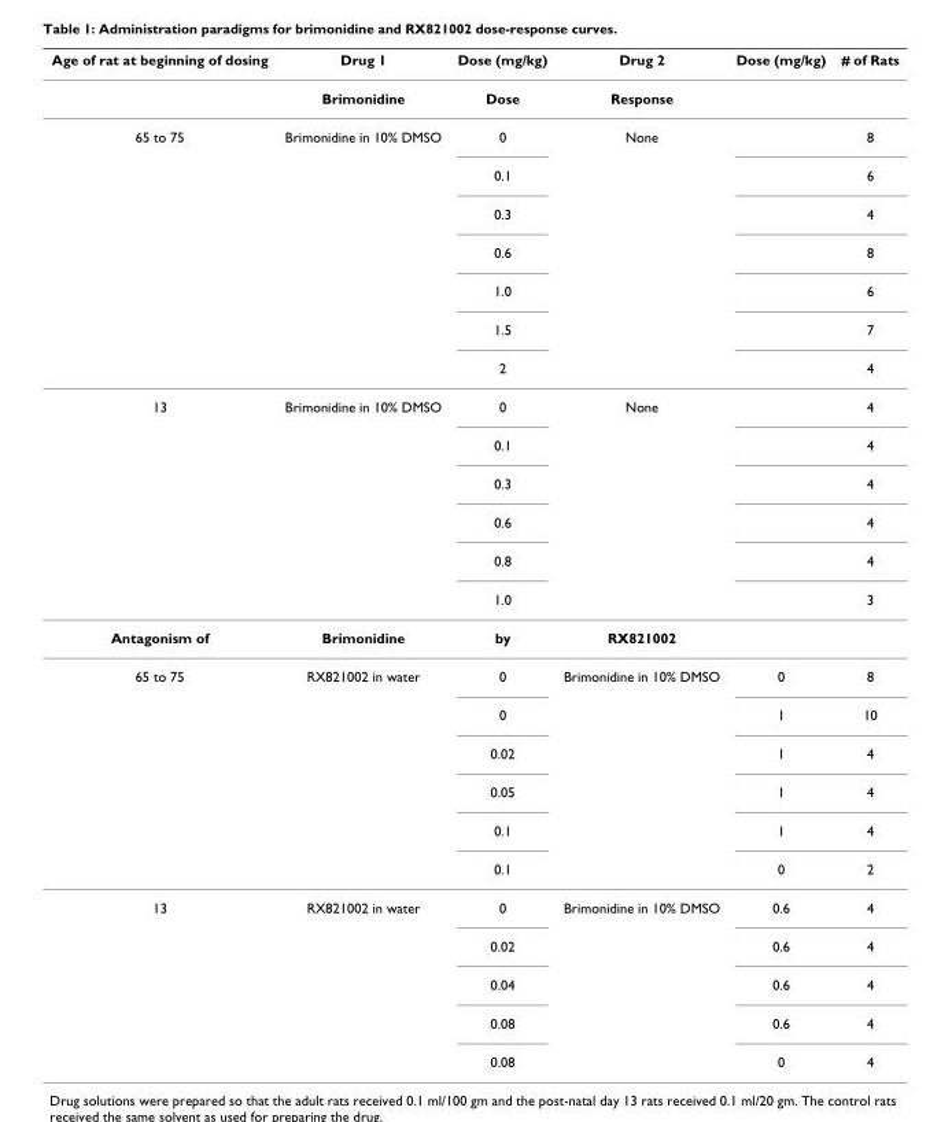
<table><thead><tr><td>Age of rat at beginning of dosing</td><td>Drug 1</td><td>Dose (mg/kg)</td><td>Drug 2</td><td>Dose (mg/kg)</td><td># of Rats</td></tr></thead><tbody><tr><td></td><td>Brimonidine</td><td>Dose</td><td>Response</td><td></td><td></td></tr><tr><td rowspan="7">65 to 75</td><td>Brimonidine in 10% DMSO</td><td>0</td><td>None</td><td></td><td>8</td></tr><tr><td></td><td>0.1</td><td></td><td></td><td>6</td></tr><tr><td></td><td>0.3</td><td></td><td></td><td>4</td></tr><tr><td></td><td>0.6</td><td></td><td></td><td>8</td></tr><tr><td></td><td>1.0</td><td></td><td></td><td>6</td></tr><tr><td></td><td>1.5</td><td></td><td></td><td>7</td></tr><tr><td></td><td>2</td><td></td><td></td><td>4</td></tr><tr><td rowspan="6">13</td><td>Brimonidine in 10% DMSO</td><td>0</td><td>None</td><td></td><td>4</td></tr><tr><td></td><td>0.1</td><td></td><td></td><td>4</td></tr><tr><td></td><td>0.3</td><td></td><td></td><td>4</td></tr><tr><td></td><td>0.6</td><td></td><td></td><td>4</td></tr><tr><td></td><td>0.8</td><td></td><td></td><td>4</td></tr><tr><td></td><td>1.0</td><td></td><td></td><td>3</td></tr><tr><td>Antagonism of</td><td>Brimonidine</td><td>by</td><td>RX821002</td><td></td><td></td></tr><tr><td rowspan="6">65 to 75</td><td>RX821002 in water</td><td>0</td><td>Brimonidine in 10% DMSO</td><td>0</td><td>8</td></tr><tr><td></td><td>0</td><td></td><td>1</td><td>10</td></tr><tr><td></td><td>0.02</td><td></td><td>1</td><td>4</td></tr><tr><td></td><td>0.05</td><td></td><td>1</td><td>4</td></tr><tr><td></td><td>0.1</td><td></td><td>1</td><td>4</td></tr><tr><td></td><td>0.1</td><td></td><td>0</td><td>2</td></tr><tr><td rowspan="5">13</td><td>RX821002 in water</td><td>0</td><td>Brimonidine in 10% DMSO</td><td>0.6</td><td>4</td></tr><tr><td></td><td>0.02</td><td></td><td>0.6</td><td>4</td></tr><tr><td></td><td>0.04</td><td></td><td>0.6</td><td>4</td></tr><tr><td></td><td>0.08</td><td></td><td>0.6</td><td>4</td></tr><tr><td></td><td>0.08</td><td></td><td>0</td><td>4</td></tr></tbody></table>